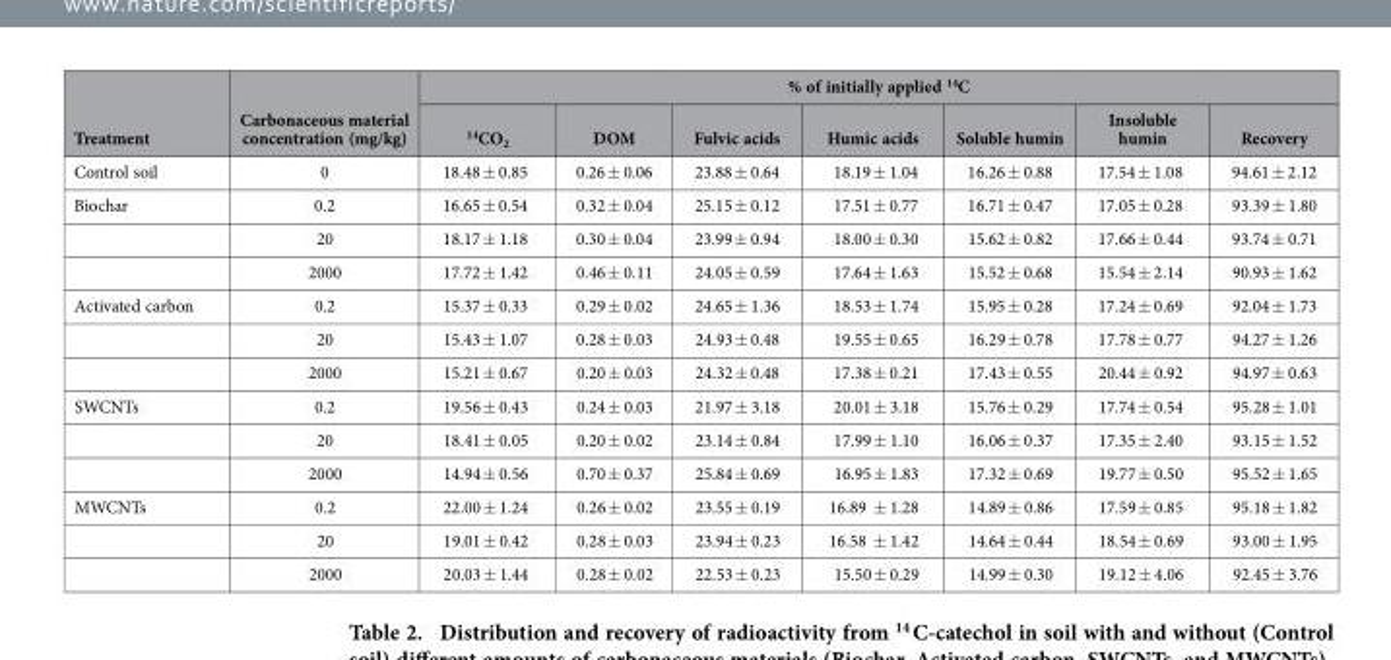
<table><thead><tr><td rowspan="2">Treatment</td><td rowspan="2">Carbonaceous material concentration (mg/kg)</td><td colspan="7">% of initially applied <sup>14</sup>C</td></tr><tr><td><sup>14</sup>CO<sub>2</sub></td><td>DOM</td><td>Fulvic acids</td><td>Humic acids</td><td>Soluble humin</td><td>Insoluble humin</td><td>Recovery</td></tr></thead><tbody><tr><td>Control soil</td><td>0</td><td>18.48 ± 0.85</td><td>0.26 ± 0.06</td><td>23.88 ± 0.64</td><td>18.19 ± 1.04</td><td>16.26 ± 0.88</td><td>17.54 ± 1.08</td><td>94.61 ± 2.12</td></tr><tr><td rowspan="3">Biochar</td><td>0.2</td><td>16.65 ± 0.54</td><td>0.32 ± 0.04</td><td>25.15 ± 0.12</td><td>17.51 ± 0.77</td><td>16.71 ± 0.47</td><td>17.05 ± 0.28</td><td>93.39 ± 1.80</td></tr><tr><td>20</td><td>18.17 ± 1.18</td><td>0.30 ± 0.04</td><td>23.99 ± 0.94</td><td>18.00 ± 0.30</td><td>15.62 ± 0.82</td><td>17.66 ± 0.44</td><td>93.74 ± 0.71</td></tr><tr><td>2000</td><td>17.72 ± 1.42</td><td>0.46 ± 0.11</td><td>24.05 ± 0.59</td><td>17.64 ± 1.63</td><td>15.52 ± 0.68</td><td>15.54 ± 2.14</td><td>90.93 ± 1.62</td></tr><tr><td rowspan="3">Activated carbon</td><td>0.2</td><td>15.37 ± 0.33</td><td>0.29 ± 0.02</td><td>24.65 ± 1.36</td><td>18.53 ± 1.74</td><td>15.95 ± 0.28</td><td>17.24 ± 0.69</td><td>92.04 ± 1.73</td></tr><tr><td>20</td><td>15.43 ± 1.07</td><td>0.28 ± 0.03</td><td>24.93 ± 0.48</td><td>19.55 ± 0.65</td><td>16.29 ± 0.78</td><td>17.78 ± 0.77</td><td>94.27 ± 1.26</td></tr><tr><td>2000</td><td>15.21 ± 0.67</td><td>0.20 ± 0.03</td><td>24.32 ± 0.48</td><td>17.38 ± 0.21</td><td>17.43 ± 0.55</td><td>20.44 ± 0.92</td><td>94.97 ± 0.63</td></tr><tr><td rowspan="3">SWCNTs</td><td>0.2</td><td>19.56 ± 0.43</td><td>0.24 ± 0.03</td><td>21.97 ± 3.18</td><td>20.01 ± 3.18</td><td>15.76 ± 0.29</td><td>17.74 ± 0.54</td><td>95.28 ± 1.01</td></tr><tr><td>20</td><td>18.41 ± 0.05</td><td>0.20 ± 0.02</td><td>23.14 ± 0.84</td><td>17.99 ± 1.10</td><td>16.06 ± 0.37</td><td>17.35 ± 2.40</td><td>93.15 ± 1.52</td></tr><tr><td>2000</td><td>14.94 ± 0.56</td><td>0.70 ± 0.37</td><td>25.84 ± 0.69</td><td>16.95 ± 1.83</td><td>17.32 ± 0.69</td><td>19.77 ± 0.50</td><td>95.52 ± 1.65</td></tr><tr><td rowspan="3">MWCNTs</td><td>0.2</td><td>22.00 ± 1.24</td><td>0.26 ± 0.02</td><td>23.55 ± 0.19</td><td>16.89 ± 1.28</td><td>14.89 ± 0.86</td><td>17.59 ± 0.85</td><td>95.18 ± 1.82</td></tr><tr><td>20</td><td>19.01 ± 0.42</td><td>0.28 ± 0.03</td><td>23.94 ± 0.23</td><td>16.58 ± 1.42</td><td>14.64 ± 0.44</td><td>18.54 ± 0.69</td><td>93.00 ± 1.95</td></tr><tr><td>2000</td><td>20.03 ± 1.44</td><td>0.28 ± 0.02</td><td>22.53 ± 0.23</td><td>15.50 ± 0.29</td><td>14.99 ± 0.30</td><td>19.12 ± 4.06</td><td>92.45 ± 3.76</td></tr></tbody></table>